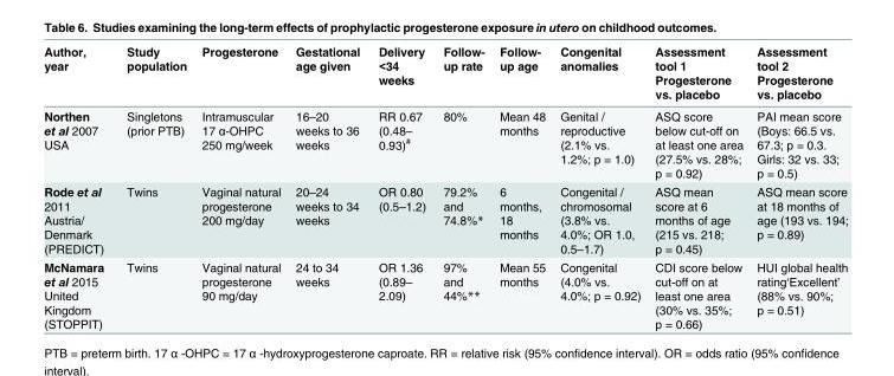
<table><thead><tr><td>Author, year</td><td>Study population</td><td>Progesterone</td><td>Gestational age given</td><td>Delivery &lt;34 weeks</td><td>Follow- up rate</td><td>Follow- up age</td><td>Congenital anomalies</td><td>Assessment tool 1 Progesterone vs. placebo</td><td>Assessment tool 2 Progesterone vs. placebo</td></tr></thead><tbody><tr><td>Northen et al 2007 USA</td><td>Singletons (prior PTB)</td><td>Intramuscular 17 α-OHPC 250 mg/week</td><td>16–20 weeks to 36 weeks</td><td>RR 0.67 (0.48– 0.93)<sup>#</sup></td><td>80%</td><td>Mean 48 months</td><td>Genital / reproductive (2.1% vs. 1.2%; p = 1.0)</td><td>ASQ score below cut-off on at least one area (27.5% vs. 28%; p = 0.92)</td><td>PAI mean score (Boys: 66.5 vs. 67.3; p = 0.3. Girls: 32 vs. 33; p = 0.5)</td></tr><tr><td>Rode et al 2011 Austria/ Denmark (PREDICT)</td><td>Twins</td><td>Vaginal natural progesterone 200 mg/day</td><td>20–24 weeks to 34 weeks</td><td>OR 0.80 (0.5–1.2)</td><td>79.2% and 74.8%*</td><td>6 months, 18 months</td><td>Congenital / chromosomal (3.8% vs. 4.0%; OR 1.0, 0.5–1.7)</td><td>ASQ mean score at 6 months of age (215 vs. 218; p = 0.45)</td><td>ASQ mean score at 18 months of age (193 vs. 194; p = 0.89)</td></tr><tr><td>McNamara et al 2015 United Kingdom (STOPPIT)</td><td>Twins</td><td>Vaginal natural progesterone 90 mg/day</td><td>24 to 34 weeks</td><td>OR 1.36 (0.89– 2.09)</td><td>97% and 44%**</td><td>Mean 55 months</td><td>Congenital (4.0% vs. 4.0%; p = 0.92)</td><td>CDI score below cut-off on at least one area (30% vs. 35%; p = 0.66)</td><td>HUI global health rating‘Excellent’ (88% vs. 90%; p = 0.51)</td></tr></tbody></table>